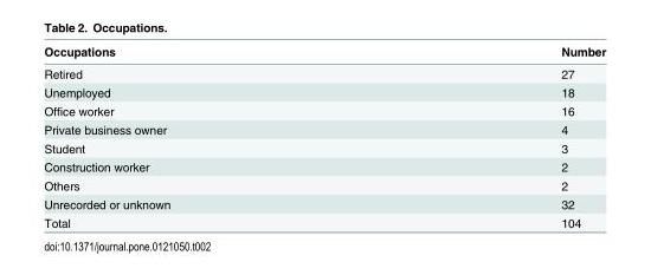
<table><thead><tr><td>Occupations</td><td>Number</td></tr></thead><tbody><tr><td>Retired</td><td>27</td></tr><tr><td>Unemployed</td><td>18</td></tr><tr><td>Office worker</td><td>16</td></tr><tr><td>Private business owner</td><td>4</td></tr><tr><td>Student</td><td>3</td></tr><tr><td>Construction worker</td><td>2</td></tr><tr><td>Others</td><td>2</td></tr><tr><td>Unrecorded or unknown</td><td>32</td></tr><tr><td>Total</td><td>104</td></tr></tbody></table>